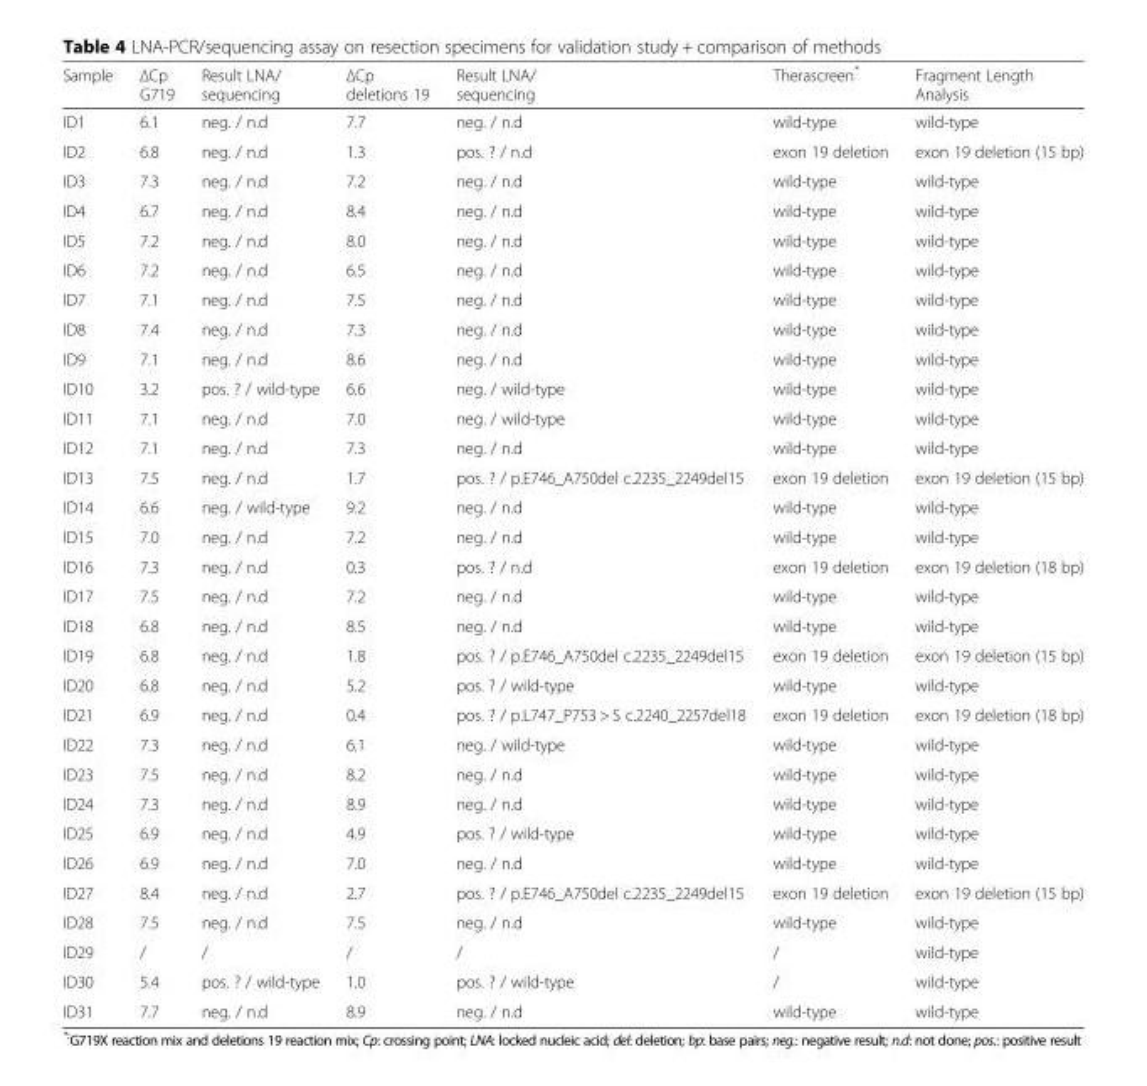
<table><thead><tr><td>Sample</td><td>ΔCp G719</td><td>Result LNA/ sequencing</td><td>ΔCp deletions 19</td><td>Result LNA/ sequencing</td><td>Therascreen*</td><td>Fragment Length Analysis</td></tr></thead><tbody><tr><td>ID1</td><td>6.1</td><td>neg. / n.d</td><td>7.7</td><td>neg. / n.d</td><td>wild-type</td><td>wild-type</td></tr><tr><td>ID2</td><td>6.8</td><td>neg. / n.d</td><td>1.3</td><td>pos. ? / n.d</td><td>exon 19 deletion</td><td>exon 19 deletion (15 bp)</td></tr><tr><td>ID3</td><td>7.3</td><td>neg. / n.d</td><td>7.2</td><td>neg. / n.d</td><td>wild-type</td><td>wild-type</td></tr><tr><td>ID4</td><td>6.7</td><td>neg. / n.d</td><td>8.4</td><td>neg. / n.d</td><td>wild-type</td><td>wild-type</td></tr><tr><td>ID5</td><td>7.2</td><td>neg. / n.d</td><td>8.0</td><td>neg. / n.d</td><td>wild-type</td><td>wild-type</td></tr><tr><td>ID6</td><td>7.2</td><td>neg. / n.d</td><td>6.5</td><td>neg. / n.d</td><td>wild-type</td><td>wild-type</td></tr><tr><td>ID7</td><td>7.1</td><td>neg. / n.d</td><td>7.5</td><td>neg. / n.d</td><td>wild-type</td><td>wild-type</td></tr><tr><td>ID8</td><td>7.4</td><td>neg. / n.d</td><td>7.3</td><td>neg. / n.d</td><td>wild-type</td><td>wild-type</td></tr><tr><td>ID9</td><td>7.1</td><td>neg. / n.d</td><td>8.6</td><td>neg. / n.d</td><td>wild-type</td><td>wild-type</td></tr><tr><td>ID10</td><td>3.2</td><td>pos. ? / wild-type</td><td>6.6</td><td>neg. / wild-type</td><td>wild-type</td><td>wild-type</td></tr><tr><td>ID11</td><td>7.1</td><td>neg. / n.d</td><td>7.0</td><td>neg. / wild-type</td><td>wild-type</td><td>wild-type</td></tr><tr><td>ID12</td><td>7.1</td><td>neg. / n.d</td><td>7.3</td><td>neg. / n.d</td><td>wild-type</td><td>wild-type</td></tr><tr><td>ID13</td><td>7.5</td><td>neg. / n.d</td><td>1.7</td><td>pos. ? / p.E746_A750del c.2235_2249del15</td><td>exon 19 deletion</td><td>exon 19 deletion (15 bp)</td></tr><tr><td>ID14</td><td>6.6</td><td>neg. / wild-type</td><td>9.2</td><td>neg. / n.d</td><td>wild-type</td><td>wild-type</td></tr><tr><td>ID15</td><td>7.0</td><td>neg. / n.d</td><td>7.2</td><td>neg. / n.d</td><td>wild-type</td><td>wild-type</td></tr><tr><td>ID16</td><td>7.3</td><td>neg. / n.d</td><td>0.3</td><td>pos. ? / n.d</td><td>exon 19 deletion</td><td>exon 19 deletion (18 bp)</td></tr><tr><td>ID17</td><td>7.5</td><td>neg. / n.d</td><td>7.2</td><td>neg. / n.d</td><td>wild-type</td><td>wild-type</td></tr><tr><td>ID18</td><td>6.8</td><td>neg. / n.d</td><td>8.5</td><td>neg. / n.d</td><td>wild-type</td><td>wild-type</td></tr><tr><td>ID19</td><td>6.8</td><td>neg. / n.d</td><td>1.8</td><td>pos. ? / p.E746_A750del c.2235_2249del15</td><td>exon 19 deletion</td><td>exon 19 deletion (15 bp)</td></tr><tr><td>ID20</td><td>6.8</td><td>neg. / n.d</td><td>5.2</td><td>pos. ? / wild-type</td><td>wild-type</td><td>wild-type</td></tr><tr><td>ID21</td><td>6.9</td><td>neg. / n.d</td><td>0.4</td><td>pos. ? / p.L747_P753 &gt; S c.2240_2257del18</td><td>exon 19 deletion</td><td>exon 19 deletion (18 bp)</td></tr><tr><td>ID22</td><td>7.3</td><td>neg. / n.d</td><td>6.1</td><td>neg. / wild-type</td><td>wild-type</td><td>wild-type</td></tr><tr><td>ID23</td><td>7.5</td><td>neg. / n.d</td><td>8.2</td><td>neg. / n.d</td><td>wild-type</td><td>wild-type</td></tr><tr><td>ID24</td><td>7.3</td><td>neg. / n.d</td><td>8.9</td><td>neg. / n.d</td><td>wild-type</td><td>wild-type</td></tr><tr><td>ID25</td><td>6.9</td><td>neg. / n.d</td><td>4.9</td><td>pos. ? / wild-type</td><td>wild-type</td><td>wild-type</td></tr><tr><td>ID26</td><td>6.9</td><td>neg. / n.d</td><td>7.0</td><td>neg. / n.d</td><td>wild-type</td><td>wild-type</td></tr><tr><td>ID27</td><td>8.4</td><td>neg. / n.d</td><td>2.7</td><td>pos. ? / p.E746_A750del c.2235_2249del15</td><td>exon 19 deletion</td><td>exon 19 deletion (15 bp)</td></tr><tr><td>ID28</td><td>7.5</td><td>neg. / n.d</td><td>7.5</td><td>neg. / n.d</td><td>wild-type</td><td>wild-type</td></tr><tr><td>ID29</td><td>/</td><td>/</td><td>/</td><td>/</td><td>/</td><td>wild-type</td></tr><tr><td>ID30</td><td>5.4</td><td>pos. ? / wild-type</td><td>1.0</td><td>pos. ? / wild-type</td><td>/</td><td>wild-type</td></tr><tr><td>ID31</td><td>7.7</td><td>neg. / n.d</td><td>8.9</td><td>neg. / n.d</td><td>wild-type</td><td>wild-type</td></tr></tbody></table>